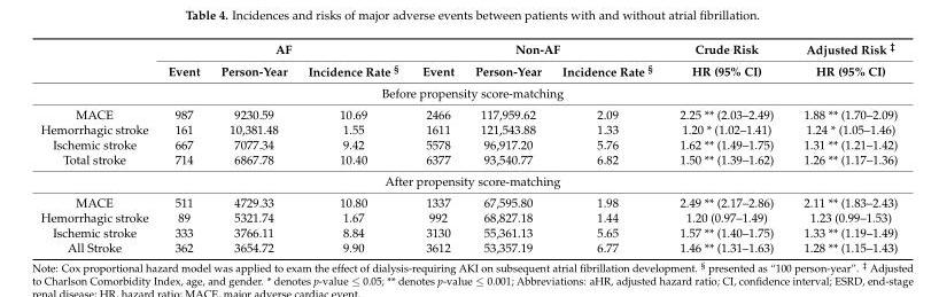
<table><thead><tr><td rowspan="2"></td><td colspan="3">AF</td><td colspan="3">Non-AF</td><td rowspan="2">Crude Risk HR (95% CI)</td><td rowspan="2">Adjusted Risk <sup>‡</sup> HR (95% CI)</td></tr><tr><td>Event</td><td>Person-Year</td><td>Incidence Rate <sup>§</sup></td><td>Event</td><td>Person-Year</td><td>Incidence Rate <sup>§</sup></td></tr></thead><tbody><tr><td colspan="9">Before propensity score-matching</td></tr><tr><td>MACE</td><td>987</td><td>9230.59</td><td>10.69</td><td>2466</td><td>117,959.62</td><td>2.09</td><td>2.25 ** (2.03–2.49)</td><td>1.88 ** (1.70–2.09)</td></tr><tr><td>Hemorrhagic stroke</td><td>161</td><td>10,381.48</td><td>1.55</td><td>1611</td><td>121,543.88</td><td>1.33</td><td>1.20 * (1.02–1.41)</td><td>1.24 * (1.05–1.46)</td></tr><tr><td>Ischemic stroke</td><td>667</td><td>7077.34</td><td>9.42</td><td>5578</td><td>96,917.20</td><td>5.76</td><td>1.62 ** (1.49–1.75)</td><td>1.31 ** (1.21–1.42)</td></tr><tr><td>Total stroke</td><td>714</td><td>6867.78</td><td>10.40</td><td>6377</td><td>93,540.77</td><td>6.82</td><td>1.50 ** (1.39–1.62)</td><td>1.26 ** (1.17–1.36)</td></tr><tr><td colspan="9">After propensity score-matching</td></tr><tr><td>MACE</td><td>511</td><td>4729.33</td><td>10.80</td><td>1337</td><td>67,595.80</td><td>1.98</td><td>2.49 ** (2.17–2.86)</td><td>2.11 ** (1.83–2.43)</td></tr><tr><td>Hemorrhagic stroke</td><td>89</td><td>5321.74</td><td>1.67</td><td>992</td><td>68,827.18</td><td>1.44</td><td>1.20 (0.97–1.49)</td><td>1.23 (0.99–1.53)</td></tr><tr><td>Ischemic stroke</td><td>333</td><td>3766.11</td><td>8.84</td><td>3130</td><td>55,361.13</td><td>5.65</td><td>1.57 ** (1.40–1.75)</td><td>1.33 ** (1.19–1.49)</td></tr><tr><td>All Stroke</td><td>362</td><td>3654.72</td><td>9.90</td><td>3612</td><td>53,357.19</td><td>6.77</td><td>1.46 ** (1.31–1.63)</td><td>1.28 ** (1.15–1.43)</td></tr></tbody></table>